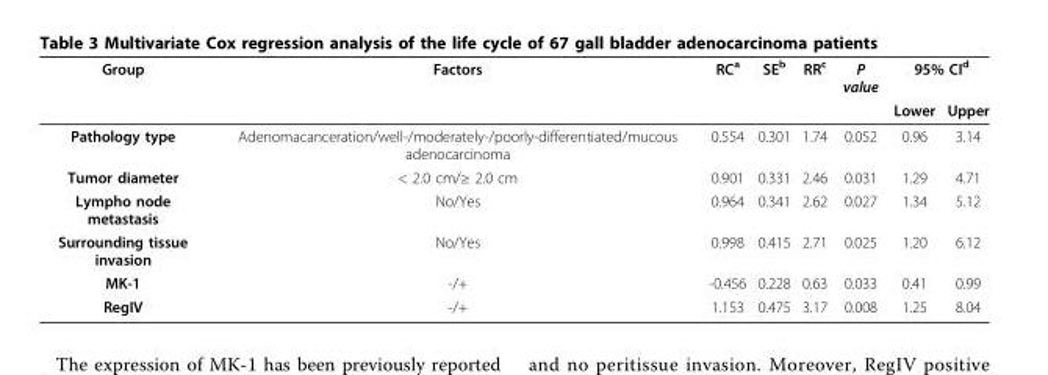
<table><thead><tr><td rowspan="2">Group</td><td rowspan="2">Factors</td><td rowspan="2">RC<sup>a</sup></td><td rowspan="2">SE<sup>b</sup></td><td rowspan="2">RR<sup>c</sup></td><td rowspan="2">P value</td><td colspan="2">95% CI<sup>d</sup></td></tr><tr><td>Lower</td><td>Upper</td></tr></thead><tbody><tr><td>Pathology type</td><td>Adenomacanceration/well-/moderately-/poorly-differentiated/mucous adenocarcinoma</td><td>0.554</td><td>0.301</td><td>1.74</td><td>0.052</td><td>0.96</td><td>3.14</td></tr><tr><td>Tumor diameter</td><td>&lt; 2.0 cm/≥ 2.0 cm</td><td>0.901</td><td>0.331</td><td>2.46</td><td>0.031</td><td>1.29</td><td>4.71</td></tr><tr><td>Lympho node metastasis</td><td>No/Yes</td><td>0.964</td><td>0.341</td><td>2.62</td><td>0.027</td><td>1.34</td><td>5.12</td></tr><tr><td>Surrounding tissue invasion</td><td>No/Yes</td><td>0.998</td><td>0.415</td><td>2.71</td><td>0.025</td><td>1.20</td><td>6.12</td></tr><tr><td>MK-1</td><td>-/+</td><td>-0.456</td><td>0.228</td><td>0.63</td><td>0.033</td><td>0.41</td><td>0.99</td></tr><tr><td>RegIV</td><td>-/+</td><td>1.153</td><td>0.475</td><td>3.17</td><td>0.008</td><td>1.25</td><td>8.04</td></tr></tbody></table>